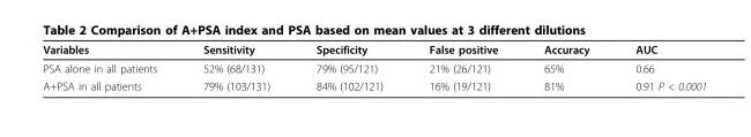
<table><thead><tr><td>Variables</td><td>Sensitivity</td><td>Specificity</td><td>False positive</td><td>Accuracy</td><td>AUC</td></tr></thead><tbody><tr><td>PSA alone in all patients</td><td>52% (68/131)</td><td>79% (95/121)</td><td>21% (26/121)</td><td>65%</td><td>0.66</td></tr><tr><td>A+PSA in all patients</td><td>79% (103/131)</td><td>84% (102/121)</td><td>16% (19/121)</td><td>81%</td><td>0.91 P &lt; 0.0001</td></tr></tbody></table>